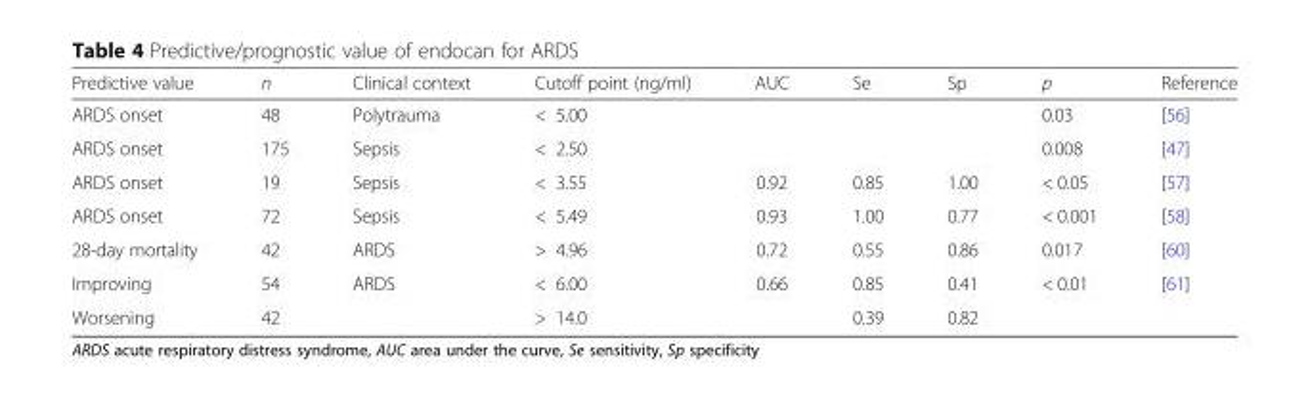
<table><thead><tr><td>Predictive value</td><td>n</td><td>Clinical context</td><td>Cutoff point (ng/ml)</td><td>AUC</td><td>Se</td><td>Sp</td><td>p</td><td>Reference</td></tr></thead><tbody><tr><td>ARDS onset</td><td>48</td><td>Polytrauma</td><td>&lt; 5.00</td><td></td><td></td><td></td><td>0.03</td><td>[56]</td></tr><tr><td>ARDS onset</td><td>175</td><td>Sepsis</td><td>&lt; 2.50</td><td></td><td></td><td></td><td>0.008</td><td>[47]</td></tr><tr><td>ARDS onset</td><td>19</td><td>Sepsis</td><td>&lt; 3.55</td><td>0.92</td><td>0.85</td><td>1.00</td><td>&lt; 0.05</td><td>[57]</td></tr><tr><td>ARDS onset</td><td>72</td><td>Sepsis</td><td>&lt; 5.49</td><td>0.93</td><td>1.00</td><td>0.77</td><td>&lt; 0.001</td><td>[58]</td></tr><tr><td>28-day mortality</td><td>42</td><td>ARDS</td><td>&gt; 4.96</td><td>0.72</td><td>0.55</td><td>0.86</td><td>0.017</td><td>[60]</td></tr><tr><td>Improving</td><td>54</td><td>ARDS</td><td>&lt; 6.00</td><td>0.66</td><td>0.85</td><td>0.41</td><td>&lt; 0.01</td><td>[61]</td></tr><tr><td>Worsening</td><td>42</td><td></td><td>&gt; 14.0</td><td></td><td>0.39</td><td>0.82</td><td></td><td></td></tr></tbody></table>